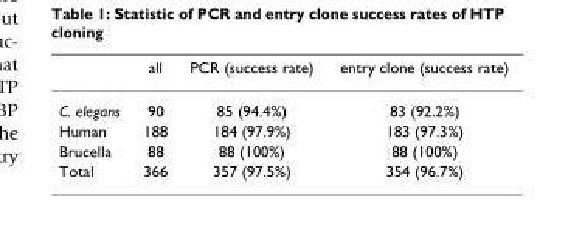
<table><thead><tr><td></td><td>all</td><td>PCR (success rate)</td><td>entry clone (success rate)</td></tr></thead><tbody><tr><td>C. elegans</td><td>90</td><td>85 (94.4%)</td><td>83 (92.2%)</td></tr><tr><td>Human</td><td>188</td><td>184 (97.9%)</td><td>183 (97.3%)</td></tr><tr><td>Brucella</td><td>88</td><td>88 (100%)</td><td>88 (100%)</td></tr><tr><td>Total</td><td>366</td><td>357 (97.5%)</td><td>354 (96.7%)</td></tr></tbody></table>